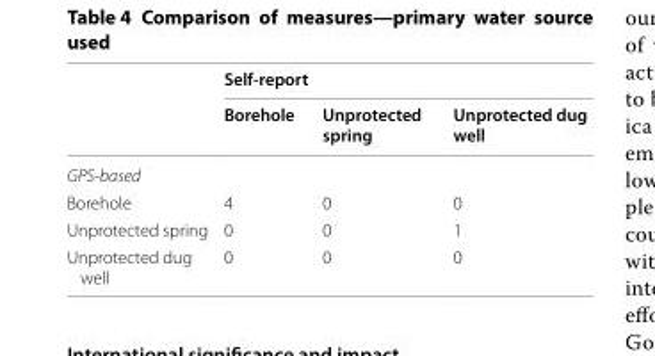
<table><thead><tr><td rowspan="2"></td><td colspan="3">Self‑report</td></tr><tr><td>Borehole</td><td>Unprotected spring</td><td>Unprotected dug well</td></tr></thead><tbody><tr><td colspan="4">GPS-based</td></tr><tr><td>Borehole</td><td>4</td><td>0</td><td>0</td></tr><tr><td>Unprotected spring</td><td>0</td><td>0</td><td>1</td></tr><tr><td>Unprotected dug well</td><td>0</td><td>0</td><td>0</td></tr></tbody></table>